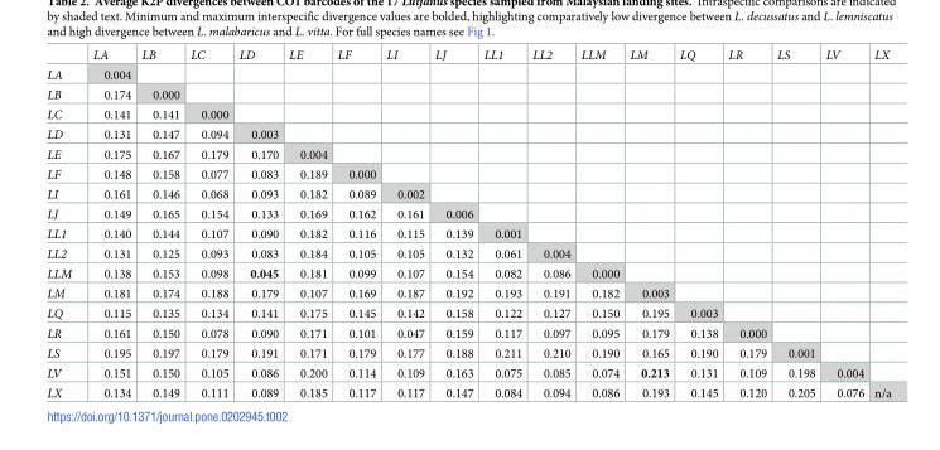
<table><thead><tr><td></td><td>LA</td><td>LB</td><td>LC</td><td>LD</td><td>LE</td><td>LF</td><td>LI</td><td>LJ</td><td>LL1</td><td>LL2</td><td>LLM</td><td>LM</td><td>LQ</td><td>LR</td><td>LS</td><td>LV</td><td>LX</td></tr></thead><tbody><tr><td>LA</td><td>0.004</td><td></td><td></td><td></td><td></td><td></td><td></td><td></td><td></td><td></td><td></td><td></td><td></td><td></td><td></td><td></td><td></td></tr><tr><td>LB</td><td>0.174</td><td>0.000</td><td></td><td></td><td></td><td></td><td></td><td></td><td></td><td></td><td></td><td></td><td></td><td></td><td></td><td></td><td></td></tr><tr><td>LC</td><td>0.141</td><td>0.141</td><td>0.000</td><td></td><td></td><td></td><td></td><td></td><td></td><td></td><td></td><td></td><td></td><td></td><td></td><td></td><td></td></tr><tr><td>LD</td><td>0.131</td><td>0.147</td><td>0.094</td><td>0.003</td><td></td><td></td><td></td><td></td><td></td><td></td><td></td><td></td><td></td><td></td><td></td><td></td><td></td></tr><tr><td>LE</td><td>0.175</td><td>0.167</td><td>0.179</td><td>0.170</td><td>0.004</td><td></td><td></td><td></td><td></td><td></td><td></td><td></td><td></td><td></td><td></td><td></td><td></td></tr><tr><td>LF</td><td>0.148</td><td>0.158</td><td>0.077</td><td>0.083</td><td>0.189</td><td>0.000</td><td></td><td></td><td></td><td></td><td></td><td></td><td></td><td></td><td></td><td></td><td></td></tr><tr><td>LI</td><td>0.161</td><td>0.146</td><td>0.068</td><td>0.093</td><td>0.182</td><td>0.089</td><td>0.002</td><td></td><td></td><td></td><td></td><td></td><td></td><td></td><td></td><td></td><td></td></tr><tr><td>LJ</td><td>0.149</td><td>0.165</td><td>0.154</td><td>0.133</td><td>0.169</td><td>0.162</td><td>0.161</td><td>0.006</td><td></td><td></td><td></td><td></td><td></td><td></td><td></td><td></td><td></td></tr><tr><td>LL1</td><td>0.140</td><td>0.144</td><td>0.107</td><td>0.090</td><td>0.182</td><td>0.116</td><td>0.115</td><td>0.139</td><td>0.001</td><td></td><td></td><td></td><td></td><td></td><td></td><td></td><td></td></tr><tr><td>LL2</td><td>0.131</td><td>0.125</td><td>0.093</td><td>0.083</td><td>0.184</td><td>0.105</td><td>0.105</td><td>0.132</td><td>0.061</td><td>0.004</td><td></td><td></td><td></td><td></td><td></td><td></td><td></td></tr><tr><td>LLM</td><td>0.138</td><td>0.153</td><td>0.098</td><td>0.045</td><td>0.181</td><td>0.099</td><td>0.107</td><td>0.154</td><td>0.082</td><td>0.086</td><td>0.000</td><td></td><td></td><td></td><td></td><td></td><td></td></tr><tr><td>LM</td><td>0.181</td><td>0.174</td><td>0.188</td><td>0.179</td><td>0.107</td><td>0.169</td><td>0.187</td><td>0.192</td><td>0.193</td><td>0.191</td><td>0.182</td><td>0.003</td><td></td><td></td><td></td><td></td><td></td></tr><tr><td>LQ</td><td>0.115</td><td>0.135</td><td>0.134</td><td>0.141</td><td>0.175</td><td>0.145</td><td>0.142</td><td>0.158</td><td>0.122</td><td>0.127</td><td>0.150</td><td>0.195</td><td>0.003</td><td></td><td></td><td></td><td></td></tr><tr><td>LR</td><td>0.161</td><td>0.150</td><td>0.078</td><td>0.090</td><td>0.171</td><td>0.101</td><td>0.047</td><td>0.159</td><td>0.117</td><td>0.097</td><td>0.095</td><td>0.179</td><td>0.138</td><td>0.000</td><td></td><td></td><td></td></tr><tr><td>LS</td><td>0.195</td><td>0.197</td><td>0.179</td><td>0.191</td><td>0.171</td><td>0.179</td><td>0.177</td><td>0.188</td><td>0.211</td><td>0.210</td><td>0.190</td><td>0.165</td><td>0.190</td><td>0.179</td><td>0.001</td><td></td><td></td></tr><tr><td>LV</td><td>0.151</td><td>0.150</td><td>0.105</td><td>0.086</td><td>0.200</td><td>0.114</td><td>0.109</td><td>0.163</td><td>0.075</td><td>0.085</td><td>0.074</td><td>0.213</td><td>0.131</td><td>0.109</td><td>0.198</td><td>0.004</td><td></td></tr><tr><td>LX</td><td>0.134</td><td>0.149</td><td>0.111</td><td>0.089</td><td>0.185</td><td>0.117</td><td>0.117</td><td>0.147</td><td>0.084</td><td>0.094</td><td>0.086</td><td>0.193</td><td>0.145</td><td>0.120</td><td>0.205</td><td>0.076</td><td>n/a</td></tr></tbody></table>